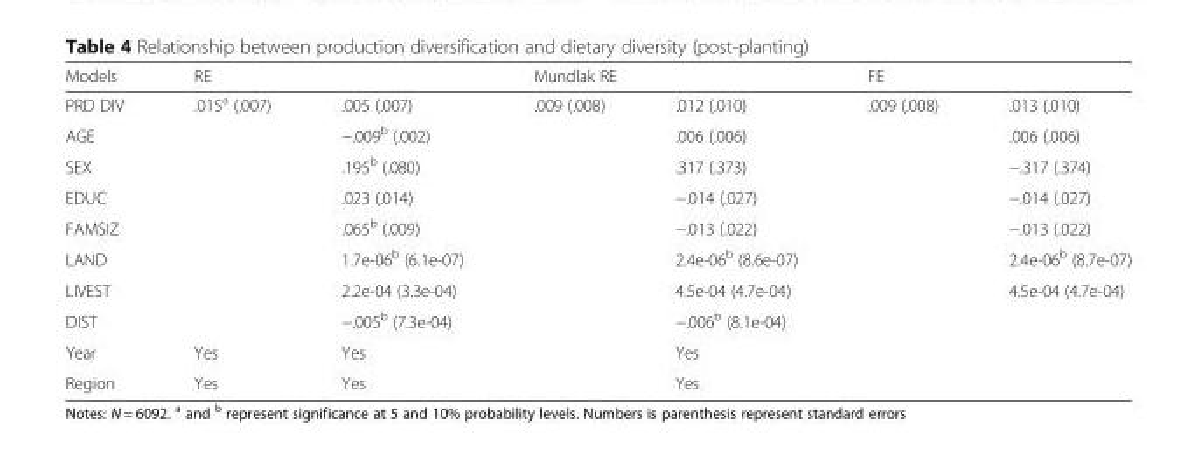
<table><thead><tr><td rowspan="2">Models PRD DIV</td><td colspan="2">RE</td><td colspan="2">Mundlak RE</td><td colspan="2">FE</td></tr><tr><td>.015<sup>a</sup> (.007)</td><td>.005 (.007)</td><td>.009 (.008)</td><td>.012 (.010)</td><td>.009 (.008)</td><td>.013 (.010)</td></tr></thead><tbody><tr><td>AGE</td><td></td><td>−.009<sup>b</sup> (.002)</td><td></td><td>.006 (.006)</td><td></td><td>.006 (.006)</td></tr><tr><td>SEX</td><td></td><td>.195<sup>b</sup> (.080)</td><td></td><td>.317 (.373)</td><td></td><td>−.317 (.374)</td></tr><tr><td>EDUC</td><td></td><td>.023 (.014)</td><td></td><td>−.014 (.027)</td><td></td><td>−.014 (.027)</td></tr><tr><td>FAMSIZ</td><td></td><td>.065<sup>b</sup> (.009)</td><td></td><td>−.013 (.022)</td><td></td><td>−.013 (.022)</td></tr><tr><td>LAND</td><td></td><td>1.7e-06<sup>b</sup> (6.1e-07)</td><td></td><td>2.4e-06<sup>b</sup> (8.6e-07)</td><td></td><td>2.4e-06<sup>b</sup> (8.7e-07)</td></tr><tr><td>LIVEST</td><td></td><td>2.2e-04 (3.3e-04)</td><td></td><td>4.5e-04 (4.7e-04)</td><td></td><td>4.5e-04 (4.7e-04)</td></tr><tr><td>DIST</td><td></td><td>−.005<sup>b</sup> (7.3e-04)</td><td></td><td>−.006<sup>b</sup> (8.1e-04)</td><td></td><td></td></tr><tr><td>Year</td><td>Yes</td><td>Yes</td><td></td><td>Yes</td><td></td><td></td></tr><tr><td>Region</td><td>Yes</td><td>Yes</td><td></td><td>Yes</td><td></td><td></td></tr></tbody></table>